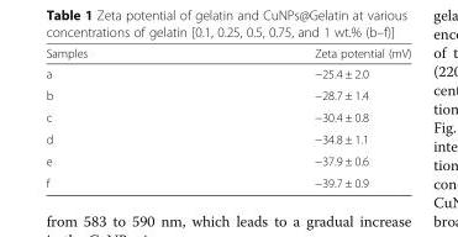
<table><thead><tr><td>Samples</td><td>Zeta potential (mV)</td></tr></thead><tbody><tr><td>a</td><td>−25.4 ± 2.0</td></tr><tr><td>b</td><td>−28.7 ± 1.4</td></tr><tr><td>c</td><td>−30.4 ± 0.8</td></tr><tr><td>d</td><td>−34.8 ± 1.1</td></tr><tr><td>e</td><td>−37.9 ± 0.6</td></tr><tr><td>f</td><td>−39.7 ± 0.9</td></tr></tbody></table>